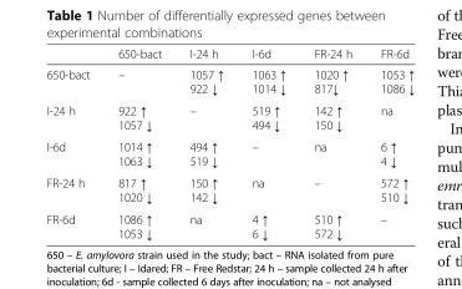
<table><thead><tr><td></td><td>650-bact</td><td>I-24 h</td><td>I-6d</td><td>FR-24 h</td><td>FR-6d</td></tr></thead><tbody><tr><td>650-bact</td><td>–</td><td>1057 ↑ 922 ↓</td><td>1063 ↑ 1014 ↓</td><td>1020 ↑ 817↓</td><td>1053 ↑ 1086 ↓</td></tr><tr><td>I-24 h</td><td>922 ↑ 1057 ↓</td><td>–</td><td>519 ↑ 494 ↓</td><td>142 ↑ 150 ↓</td><td>na</td></tr><tr><td>I-6d</td><td>1014 ↑ 1063 ↓</td><td>494 ↑ 519 ↓</td><td>–</td><td>na</td><td>6 ↑ 4 ↓</td></tr><tr><td>FR-24 h</td><td>817 ↑ 1020 ↓</td><td>150 ↑ 142 ↓</td><td>na</td><td>–</td><td>572 ↑ 510 ↓</td></tr><tr><td>FR-6d</td><td>1086 ↑ 1053 ↓</td><td>na</td><td>4 ↑ 6 ↓</td><td>510 ↑ 572 ↓</td><td>–</td></tr></tbody></table>